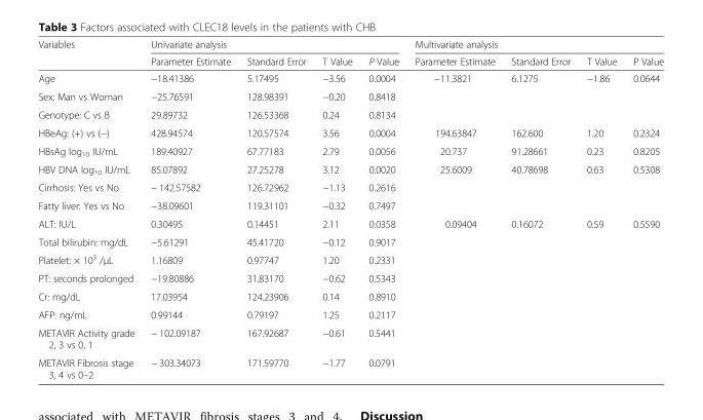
<table><thead><tr><td rowspan="2">Variables</td><td colspan="4">Univariate analysis</td><td colspan="4">Multivariate analysis</td></tr><tr><td>Parameter Estimate</td><td>Standard Error</td><td>T Value</td><td>P Value</td><td>Parameter Estimate</td><td>Standard Error</td><td>T Value</td><td>P Value</td></tr></thead><tbody><tr><td>Age</td><td>−18.41386</td><td>5.17495</td><td>−3.56</td><td>0.0004</td><td>−11.3821</td><td>6.1275</td><td>−1.86</td><td>0.0644</td></tr><tr><td>Sex: Man vs Woman</td><td>−25.76591</td><td>128.98391</td><td>−0.20</td><td>0.8418</td><td rowspan="2" colspan="4"></td></tr><tr><td>Genotype: C vs B</td><td>29.89732</td><td>126.53368</td><td>0.24</td><td>0.8134</td></tr><tr><td>HBeAg: (+) vs (−)</td><td>428.94574</td><td>120.57574</td><td>3.56</td><td>0.0004</td><td>194.63847</td><td>162.600</td><td>1.20</td><td>0.2324</td></tr><tr><td>HBsAg log<sub>10</sub> IU/mL</td><td>189.40927</td><td>67.77183</td><td>2.79</td><td>0.0056</td><td>20.737</td><td>91.28661</td><td>0.23</td><td>0.8205</td></tr><tr><td>HBV DNA log<sub>10</sub> IU/mL</td><td>85.07892</td><td>27.25278</td><td>3.12</td><td>0.0020</td><td>25.6009</td><td>40.78698</td><td>0.63</td><td>0.5308</td></tr><tr><td>Cirrhosis: Yes vs No</td><td>− 142.57582</td><td>126.72962</td><td>−1.13</td><td>0.2616</td><td rowspan="2" colspan="4"></td></tr><tr><td>Fatty liver: Yes vs No</td><td>−38.09601</td><td>119.31101</td><td>−0.32</td><td>0.7497</td></tr><tr><td>ALT: IU/L</td><td>0.30495</td><td>0.14451</td><td>2.11</td><td>0.0358</td><td>0.09404</td><td>0.16072</td><td>0.59</td><td>0.5590</td></tr><tr><td>Total bilirubin: mg/dL</td><td>−5.61291</td><td>45.41720</td><td>−0.12</td><td>0.9017</td><td rowspan="7" colspan="4"></td></tr><tr><td>Platelet: × 10<sup>3</sup> /μL</td><td>1.16809</td><td>0.97747</td><td>1.20</td><td>0.2331</td></tr><tr><td>PT: seconds prolonged</td><td>−19.80886</td><td>31.83170</td><td>−0.62</td><td>0.5343</td></tr><tr><td>Cr: mg/dL</td><td>17.03954</td><td>124.23906</td><td>0.14</td><td>0.8910</td></tr><tr><td>AFP: ng/mL</td><td>0.99144</td><td>0.79197</td><td>1.25</td><td>0.2117</td></tr><tr><td>METAVIR Activity grade 2, 3 vs 0, 1</td><td>− 102.09187</td><td>167.92687</td><td>−0.61</td><td>0.5441</td></tr><tr><td>METAVIR Fibrosis stage 3, 4 vs 0–2</td><td>− 303.34073</td><td>171.59770</td><td>−1.77</td><td>0.0791</td></tr></tbody></table>